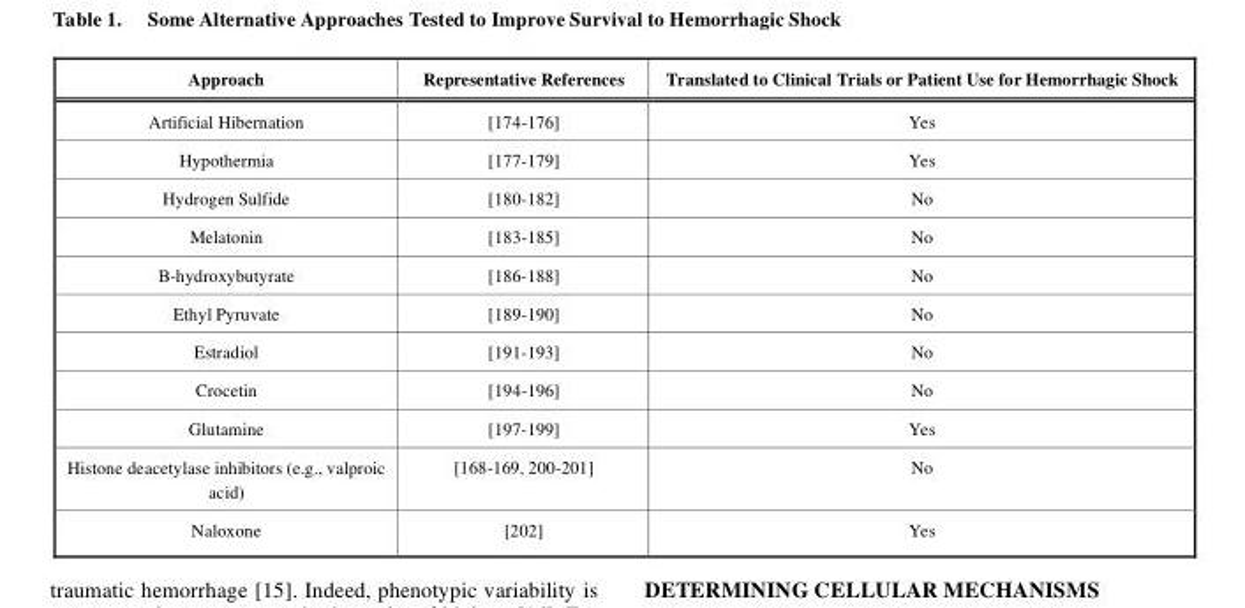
<table><thead><tr><td>Approach</td><td>Representative References</td><td>Translated to Clinical Trials or Patient Use for Hemorrhagic Shock</td></tr></thead><tbody><tr><td>Artificial Hibernation</td><td>[174-176]</td><td>Yes</td></tr><tr><td>Hypothermia</td><td>[177-179]</td><td>Yes</td></tr><tr><td>Hydrogen Sulfide</td><td>[180-182]</td><td>No</td></tr><tr><td>Melatonin</td><td>[183-185]</td><td>No</td></tr><tr><td>Β-hydroxybutyrate</td><td>[186-188]</td><td>No</td></tr><tr><td>Ethyl Pyruvate</td><td>[189-190]</td><td>No</td></tr><tr><td>Estradiol</td><td>[191-193]</td><td>No</td></tr><tr><td>Crocetin</td><td>[194-196]</td><td>No</td></tr><tr><td>Glutamine</td><td>[197-199]</td><td>Yes</td></tr><tr><td>Histone deacetylase inhibitors (e.g., valproic acid)</td><td>[168-169, 200-201]</td><td>No</td></tr><tr><td>Naloxone</td><td>[202]</td><td>Yes</td></tr></tbody></table>